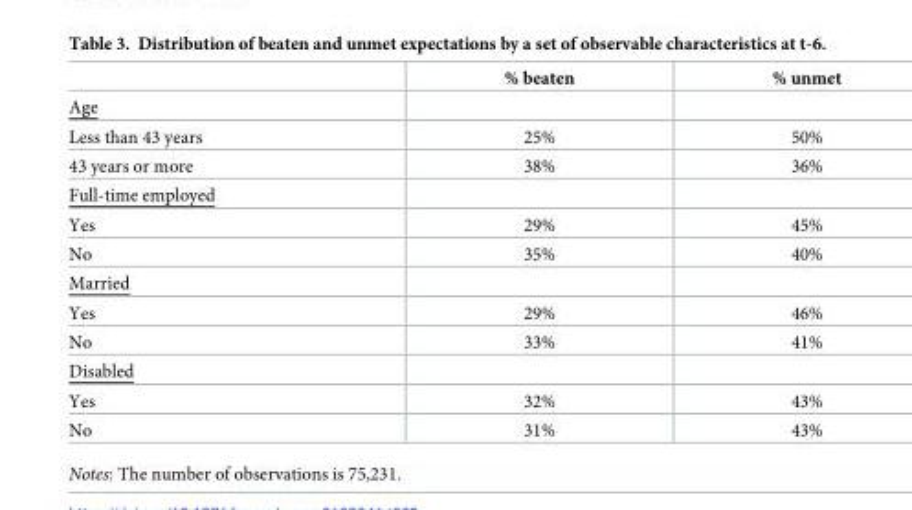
<table><thead><tr><td></td><td>% beaten</td><td>% unmet</td></tr></thead><tbody><tr><td colspan="3">Age</td></tr><tr><td>Less than 43 years</td><td>25%</td><td>50%</td></tr><tr><td>43 years or more</td><td>38%</td><td>36%</td></tr><tr><td colspan="3">Full-time employed</td></tr><tr><td>Yes</td><td>29%</td><td>45%</td></tr><tr><td>No</td><td>35%</td><td>40%</td></tr><tr><td colspan="3">Married</td></tr><tr><td>Yes</td><td>29%</td><td>46%</td></tr><tr><td>No</td><td>33%</td><td>41%</td></tr><tr><td colspan="3">Disabled</td></tr><tr><td>Yes</td><td>32%</td><td>43%</td></tr><tr><td>No</td><td>31%</td><td>43%</td></tr></tbody></table>